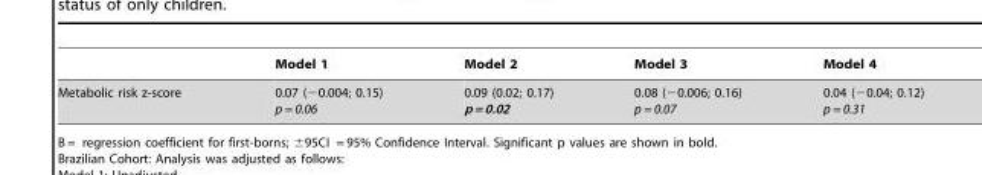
<table><thead><tr><td></td><td>Model 1</td><td>Model 2</td><td>Model 3</td><td>Model 4</td></tr></thead><tbody><tr><td>Metabolic risk z-score</td><td>0.07 (−0.004; 0.15) p = 0.06</td><td>0.09 (0.02; 0.17) p = 0.02</td><td>0.08 (−0.006; 0.16) p = 0.07</td><td>0.04 (−0.04; 0.12) p = 0.31</td></tr></tbody></table>